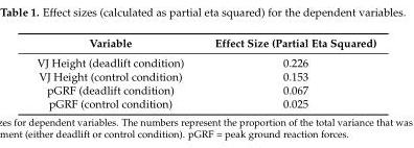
<table><thead><tr><td>Variable</td><td>Effect Size (Partial Eta Squared)</td></tr></thead><tbody><tr><td>VJ Height (deadlift condition)</td><td>0.226</td></tr><tr><td>VJ Height (control condition)</td><td>0.153</td></tr><tr><td>pGRF (deadlift condition)</td><td>0.067</td></tr><tr><td>pGRF (control condition)</td><td>0.025</td></tr></tbody></table>